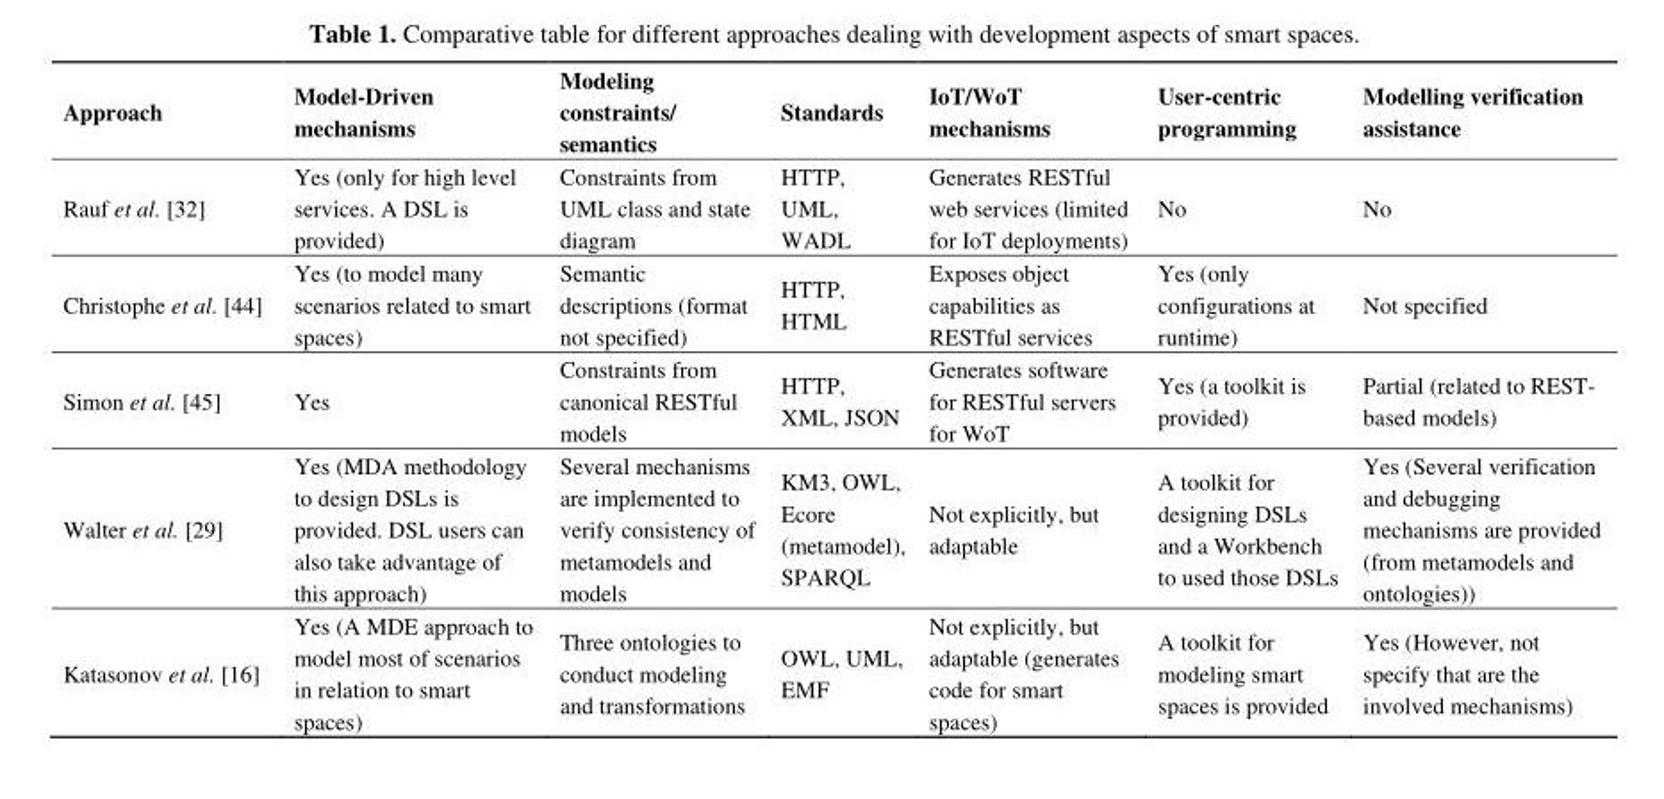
<table><thead><tr><td>Approach</td><td>Model-Driven mechanisms</td><td>Modeling constraints/ semantics</td><td>Standards</td><td>IoT/WoT mechanisms</td><td>User-centric programming</td><td>Modelling verification assistance</td></tr></thead><tbody><tr><td>Rauf et al. [32]</td><td>Yes (only for high level services. A DSL is provided)</td><td>Constraints from UML class and state diagram</td><td>HTTP, UML, WADL</td><td>Generates RESTful web services (limited for IoT deployments)</td><td>No</td><td>No</td></tr><tr><td>Christophe et al. [44]</td><td>Yes (to model many scenarios related to smart spaces)</td><td>Semantic descriptions (format not specified)</td><td>HTTP, HTML</td><td>Exposes object capabilities as RESTful services</td><td>Yes (only configurations at runtime)</td><td>Not specified</td></tr><tr><td>Simon et al. [45]</td><td>Yes</td><td>Constraints from canonical RESTful models</td><td>HTTP, XML, JSON</td><td>Generates software for RESTful servers for WoT</td><td>Yes (a toolkit is provided)</td><td>Partial (related to REST- based models)</td></tr><tr><td>Walter et al. [29]</td><td>Yes (MDA methodology to design DSLs is provided. DSL users can also take advantage of this approach)</td><td>Several mechanisms are implemented to verify consistency of metamodels and models</td><td>KM3, OWL, Ecore (metamodel), SPARQL</td><td>Not explicitly, but adaptable</td><td>A toolkit for designing DSLs and a Workbench to used those DSLs</td><td>Yes (Several verification and debugging mechanisms are provided (from metamodels and ontologies))</td></tr><tr><td>Katasonov et al. [16]</td><td>Yes (A MDE approach to model most of scenarios in relation to smart spaces)</td><td>Three ontologies to conduct modeling and transformations</td><td>OWL, UML, EMF</td><td>Not explicitly, but adaptable (generates code for smart spaces)</td><td>A toolkit for modeling smart spaces is provided</td><td>Yes (However, not specify that are the involved mechanisms)</td></tr></tbody></table>